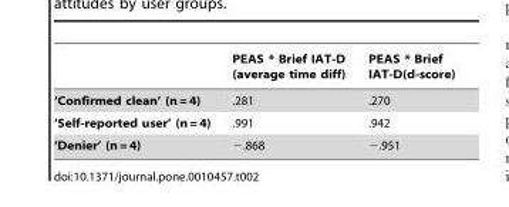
<table><thead><tr><td></td><td>PEAS * Brief IAT-D (average time diff)</td><td>PEAS * Brief IAT-D(d-score)</td></tr></thead><tbody><tr><td>‘Confirmed clean’ (n = 4)</td><td>.281</td><td>.270</td></tr><tr><td>‘Self-reported user’ (n = 4)</td><td>.991</td><td>.942</td></tr><tr><td>‘Denier’ (n = 4)</td><td>−.868</td><td>−.951</td></tr></tbody></table>